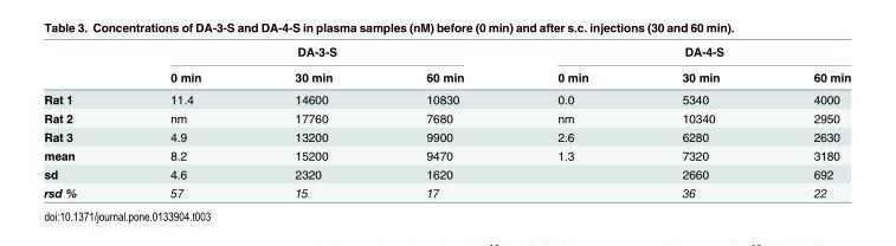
<table><thead><tr><td rowspan="2"></td><td colspan="3">DA-3-S</td><td colspan="3">DA-4-S</td></tr><tr><td>0 min</td><td>30 min</td><td>60 min</td><td>0 min</td><td>30 min</td><td>60 min</td></tr></thead><tbody><tr><td>Rat 1</td><td>11.4</td><td>14600</td><td>10830</td><td>0.0</td><td>5340</td><td>4000</td></tr><tr><td>Rat 2</td><td>nm</td><td>17760</td><td>7680</td><td>nm</td><td>10340</td><td>2950</td></tr><tr><td>Rat 3</td><td>4.9</td><td>13200</td><td>9900</td><td>2.6</td><td>6280</td><td>2630</td></tr><tr><td>mean</td><td>8.2</td><td>15200</td><td>9470</td><td>1.3</td><td>7320</td><td>3180</td></tr><tr><td>sd</td><td>4.6</td><td>2320</td><td>1620</td><td></td><td>2660</td><td>692</td></tr><tr><td>rsd %</td><td>57</td><td>15</td><td>17</td><td></td><td>36</td><td>22</td></tr></tbody></table>